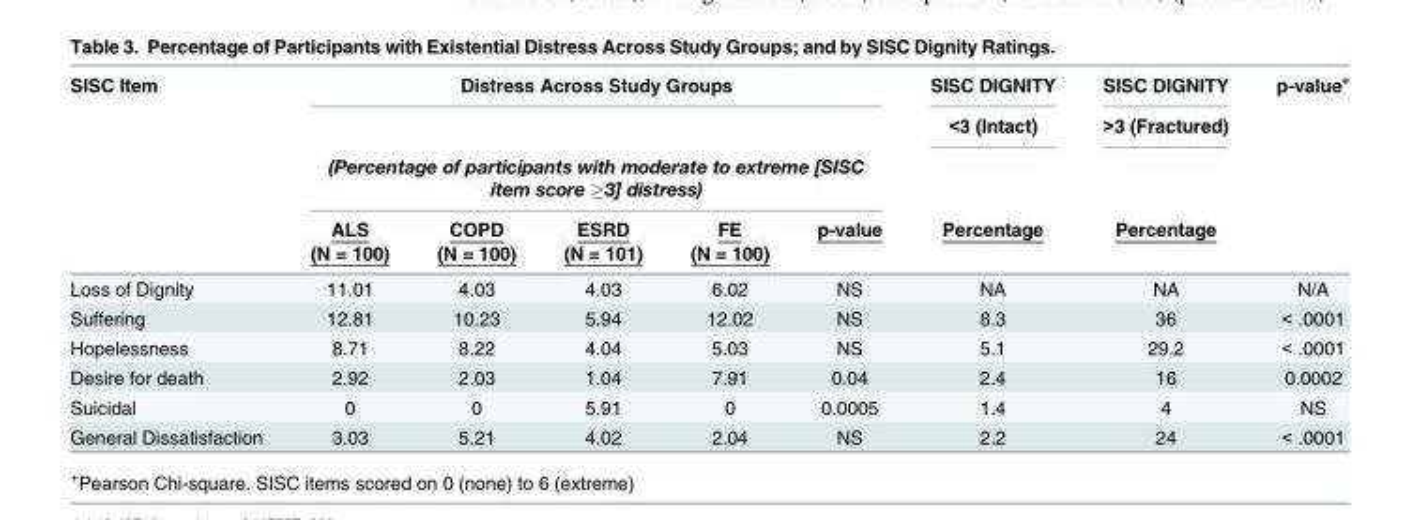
<table><thead><tr><td rowspan="5">SISC Item</td><td colspan="5">Distress Across Study Groups</td><td rowspan="5">SISC DIGNITY &lt;3 (Intact) Percentage</td><td rowspan="5">SISC DIGNITY &gt;3 (Fractured) Percentage</td><td rowspan="5">p-value<sup>+</sup></td></tr><tr><td></td><td></td><td></td><td></td><td></td></tr><tr><td colspan="5">(Percentage of participants with moderate to extreme [SISC item score ≥3] distress)</td></tr><tr><td rowspan="2">ALS (N = 100)</td><td rowspan="2">COPD (N = 100)</td><td rowspan="2">ESRD (N = 101)</td><td rowspan="2">FE (N = 100)</td><td rowspan="2">p-value</td></tr><tr></tr></thead><tbody><tr><td>Loss of Dignity</td><td>11.01</td><td>4.03</td><td>4.03</td><td>6.02</td><td>NS</td><td>NA</td><td>NA</td><td>N/A</td></tr><tr><td>Suffering</td><td>12.81</td><td>10.23</td><td>5.94</td><td>12.02</td><td>NS</td><td>8.3</td><td>36</td><td>&lt; .0001</td></tr><tr><td>Hopelessness</td><td>8.71</td><td>8.22</td><td>4.04</td><td>5.03</td><td>NS</td><td>5.1</td><td>29.2</td><td>&lt; .0001</td></tr><tr><td>Desire for death</td><td>2.92</td><td>2.03</td><td>1.04</td><td>7.91</td><td>0.04</td><td>2.4</td><td>16</td><td>0.0002</td></tr><tr><td>Suicidal</td><td>0</td><td>0</td><td>5.91</td><td>0</td><td>0.0005</td><td>1.4</td><td>4</td><td>NS</td></tr><tr><td>General Dissatisfaction</td><td>3.03</td><td>5.21</td><td>4.02</td><td>2.04</td><td>NS</td><td>2.2</td><td>24</td><td>&lt; .0001</td></tr></tbody></table>